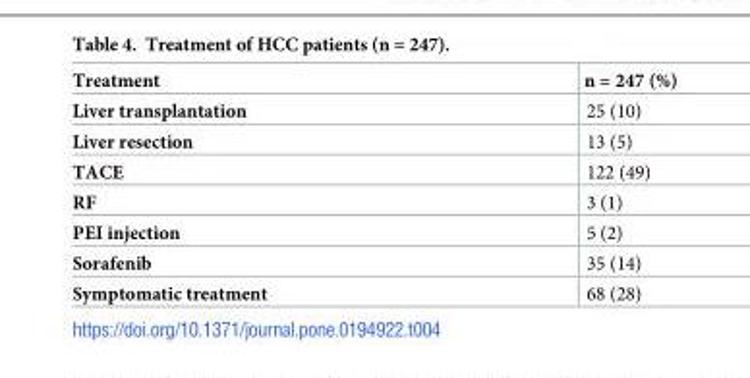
<table><thead><tr><td>Treatment</td><td>n = 247 (%)</td></tr></thead><tbody><tr><td>Liver transplantation</td><td>25 (10)</td></tr><tr><td>Liver resection</td><td>13 (5)</td></tr><tr><td>TACE</td><td>122 (49)</td></tr><tr><td>RF</td><td>3 (1)</td></tr><tr><td>PEI injection</td><td>5 (2)</td></tr><tr><td>Sorafenib</td><td>35 (14)</td></tr><tr><td>Symptomatic treatment</td><td>68 (28)</td></tr></tbody></table>